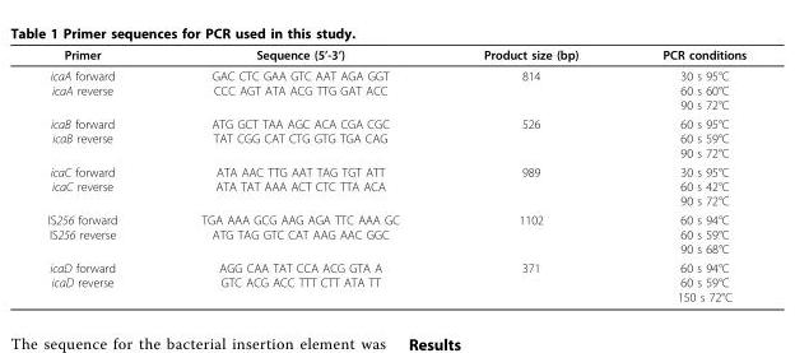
<table><thead><tr><td>Primer</td><td>Sequence (5’-3’)</td><td>Product size (bp)</td><td>PCR conditions</td></tr></thead><tbody><tr><td>icaA forward icaA reverse</td><td>GAC CTC GAA GTC AAT AGA GGT CCC AGT ATA ACG TTG GAT ACC</td><td>814</td><td>30 s 95°C 60 s 60°C 90 s 72°C</td></tr><tr><td>icaB forward icaB reverse</td><td>ATG GCT TAA AGC ACA CGA CGC TAT CGG CAT CTG GTG TGA CAG</td><td>526</td><td>60 s 95°C 60 s 59°C 90 s 72°C</td></tr><tr><td>icaC forward icaC reverse</td><td>ATA AAC TTG AAT TAG TGT ATT ATA TAT AAA ACT CTC TTA ACA</td><td>989</td><td>30 s 95°C 60 s 42°C 90 s 72°C</td></tr><tr><td>IS256 forward IS256 reverse</td><td>TGA AAA GCG AAG AGA TTC AAA GC ATG TAG GTC CAT AAG AAC GGC</td><td>1102</td><td>60 s 94°C 60 s 59°C 90 s 68°C</td></tr><tr><td>icaD forward icaD reverse</td><td>AGG CAA TAT CCA ACG GTA A GTC ACG ACC TTT CTT ATA TT</td><td>371</td><td>60 s 94°C 60 s 59°C 150 s 72°C</td></tr></tbody></table>